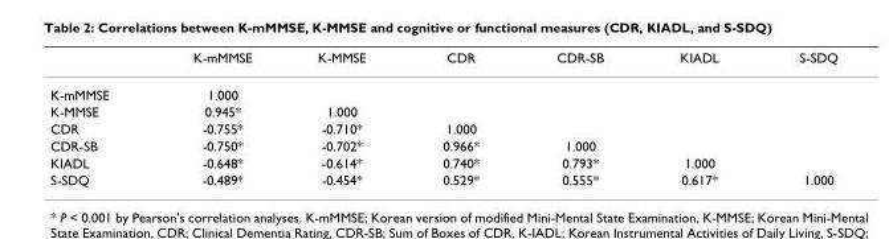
<table><thead><tr><td></td><td>K-mMMSE</td><td>K-MMSE</td><td>CDR</td><td>CDR-SB</td><td>KIADL</td><td>S-SDQ</td></tr></thead><tbody><tr><td>K-mMMSE</td><td>1.000</td><td></td><td></td><td></td><td></td><td></td></tr><tr><td>K-MMSE</td><td>0.945*</td><td>1.000</td><td></td><td></td><td></td><td></td></tr><tr><td>CDR</td><td>-0.755*</td><td>-0.710*</td><td>1.000</td><td></td><td></td><td></td></tr><tr><td>CDR-SB</td><td>-0.750*</td><td>-0.702*</td><td>0.966*</td><td>1.000</td><td></td><td></td></tr><tr><td>KIADL</td><td>-0.648*</td><td>-0.614*</td><td>0.740*</td><td>0.793*</td><td>1.000</td><td></td></tr><tr><td>S-SDQ</td><td>-0.489*</td><td>-0.454*</td><td>0.529*</td><td>0.555*</td><td>0.617*</td><td>1.000</td></tr></tbody></table>